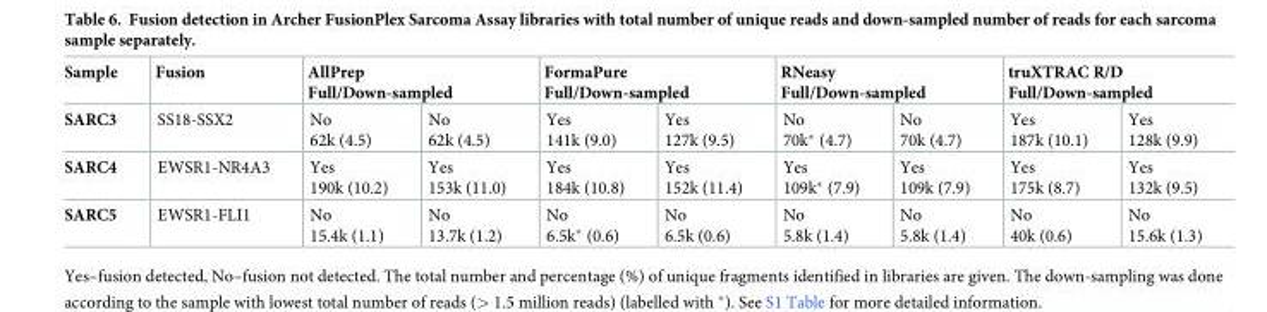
<table><thead><tr><td rowspan="2">Sample SARC3</td><td rowspan="2">Fusion SS18-SSX2</td><td colspan="2">AllPrep Full/Down-sampled</td><td colspan="2">FormaPure Full/Down-sampled</td><td colspan="2">RNeasy Full/Down-sampled</td><td colspan="2">truXTRAC R/D Full/Down-sampled</td></tr><tr><td>No 62k (4.5)</td><td>No 62k (4.5)</td><td>Yes 141k (9.0)</td><td>Yes 127k (9.5)</td><td>No 70k* (4.7)</td><td>No 70k (4.7)</td><td>Yes 187k (10.1)</td><td>Yes 128k (9.9)</td></tr></thead><tbody><tr><td>SARC4</td><td>EWSR1-NR4A3</td><td>Yes 190k (10.2)</td><td>Yes 153k (11.0)</td><td>Yes 184k (10.8)</td><td>Yes 152k (11.4)</td><td>Yes 109k* (7.9)</td><td>Yes 109k (7.9)</td><td>Yes 175k (8.7)</td><td>Yes 132k (9.5)</td></tr><tr><td>SARC5</td><td>EWSR1-FLI1</td><td>No 15.4k (1.1)</td><td>No 13.7k (1.2)</td><td>No 6.5k* (0.6)</td><td>No 6.5k (0.6)</td><td>No 5.8k (1.4)</td><td>No 5.8k (1.4)</td><td>No 40k (0.6)</td><td>No 15.6k (1.3)</td></tr></tbody></table>